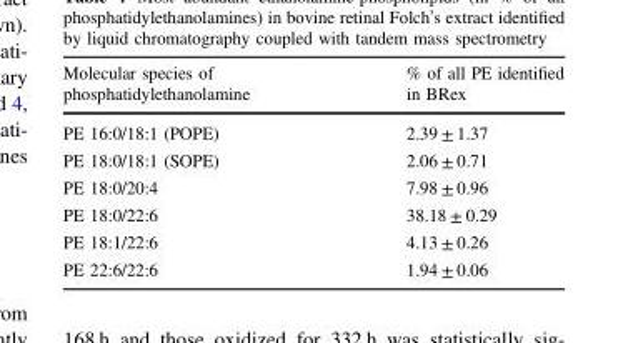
<table><thead><tr><td>Molecular species of phosphatidylethanolamine</td><td>% of all PE identified in BRex</td></tr></thead><tbody><tr><td>PE 16:0/18:1 (POPE)</td><td>2.39 ± 1.37</td></tr><tr><td>PE 18:0/18:1 (SOPE)</td><td>2.06 ± 0.71</td></tr><tr><td>PE 18:0/20:4</td><td>7.98 ± 0.96</td></tr><tr><td>PE 18:0/22:6</td><td>38.18 ± 0.29</td></tr><tr><td>PE 18:1/22:6</td><td>4.13 ± 0.26</td></tr><tr><td>PE 22:6/22:6</td><td>1.94 ± 0.06</td></tr></tbody></table>